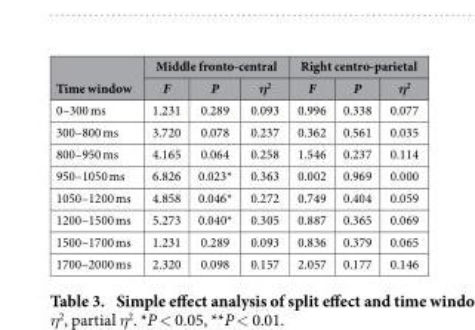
<table><thead><tr><td rowspan="2">Time window</td><td colspan="3">Middle fronto-central</td><td colspan="3">Right centro-parietal</td></tr><tr><td>F</td><td>P</td><td>η<sup>2</sup></td><td>F</td><td>P</td><td>η<sup>2</sup></td></tr></thead><tbody><tr><td>0–300 ms</td><td>1.231</td><td>0.289</td><td>0.093</td><td>0.996</td><td>0.338</td><td>0.077</td></tr><tr><td>300–800 ms</td><td>3.720</td><td>0.078</td><td>0.237</td><td>0.362</td><td>0.561</td><td>0.035</td></tr><tr><td>800–950 ms</td><td>4.165</td><td>0.064</td><td>0.258</td><td>1.546</td><td>0.237</td><td>0.114</td></tr><tr><td>950–1050 ms</td><td>6.826</td><td>0.023*</td><td>0.363</td><td>0.002</td><td>0.969</td><td>0.000</td></tr><tr><td>1050–1200 ms</td><td>4.858</td><td>0.046*</td><td>0.272</td><td>0.749</td><td>0.404</td><td>0.059</td></tr><tr><td>1200–1500 ms</td><td>5.273</td><td>0.040*</td><td>0.305</td><td>0.887</td><td>0.365</td><td>0.069</td></tr><tr><td>1500–1700 ms</td><td>1.231</td><td>0.289</td><td>0.093</td><td>0.836</td><td>0.379</td><td>0.065</td></tr><tr><td>1700–2000 ms</td><td>2.320</td><td>0.098</td><td>0.157</td><td>2.057</td><td>0.177</td><td>0.146</td></tr></tbody></table>